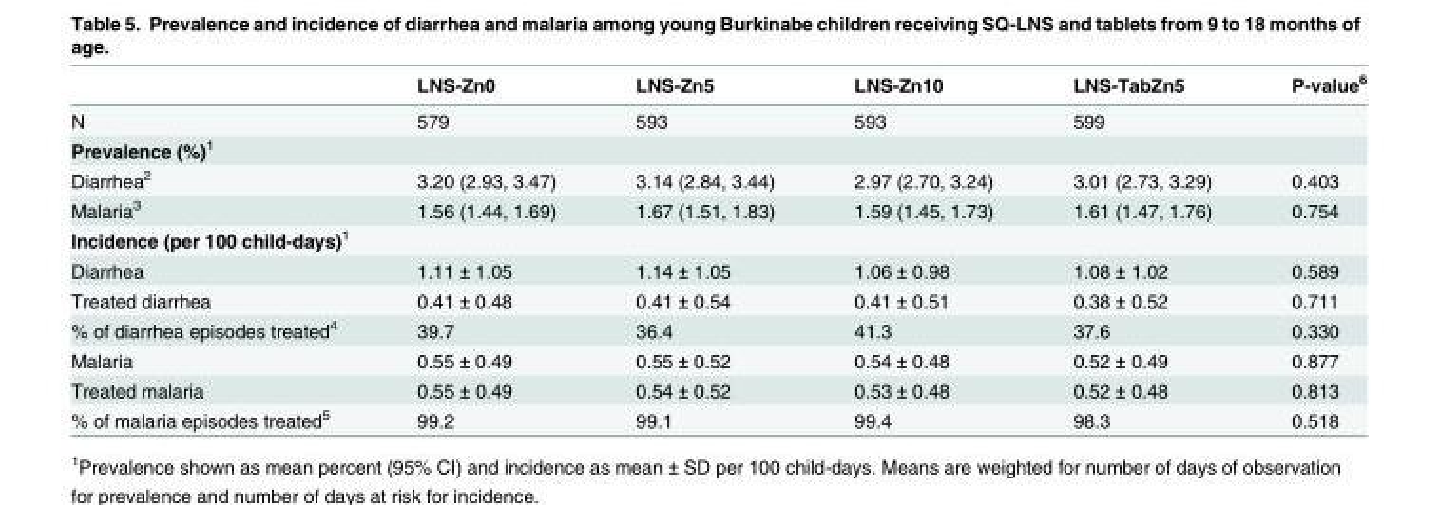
<table><thead><tr><td></td><td>LNS-Zn0</td><td>LNS-Zn5</td><td>LNS-Zn10</td><td>LNS-TabZn5</td><td>P-value<sup>6</sup></td></tr></thead><tbody><tr><td>N</td><td>579</td><td>593</td><td>593</td><td>599</td><td></td></tr><tr><td colspan="6">Prevalence (%)<sup>1</sup></td></tr><tr><td>Diarrhea<sup>2</sup></td><td>3.20 (2.93, 3.47)</td><td>3.14 (2.84, 3.44)</td><td>2.97 (2.70, 3.24)</td><td>3.01 (2.73, 3.29)</td><td>0.403</td></tr><tr><td>Malaria<sup>3</sup></td><td>1.56 (1.44, 1.69)</td><td>1.67 (1.51, 1.83)</td><td>1.59 (1.45, 1.73)</td><td>1.61 (1.47, 1.76)</td><td>0.754</td></tr><tr><td colspan="6">Incidence (per 100 child-days)<sup>1</sup></td></tr><tr><td>Diarrhea</td><td>1.11 ± 1.05</td><td>1.14 ± 1.05</td><td>1.06 ± 0.98</td><td>1.08 ± 1.02</td><td>0.589</td></tr><tr><td>Treated diarrhea</td><td>0.41 ± 0.48</td><td>0.41 ± 0.54</td><td>0.41 ± 0.51</td><td>0.38 ± 0.52</td><td>0.711</td></tr><tr><td>% of diarrhea episodes treated<sup>4</sup></td><td>39.7</td><td>36.4</td><td>41.3</td><td>37.6</td><td>0.330</td></tr><tr><td>Malaria</td><td>0.55 ± 0.49</td><td>0.55 ± 0.52</td><td>0.54 ± 0.48</td><td>0.52 ± 0.49</td><td>0.877</td></tr><tr><td>Treated malaria</td><td>0.55 ± 0.49</td><td>0.54 ± 0.52</td><td>0.53 ± 0.48</td><td>0.52 ± 0.48</td><td>0.813</td></tr><tr><td>% of malaria episodes treated<sup>5</sup></td><td>99.2</td><td>99.1</td><td>99.4</td><td>98.3</td><td>0.518</td></tr></tbody></table>